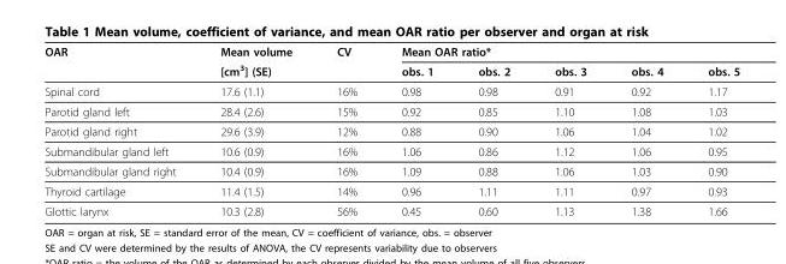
<table><thead><tr><td rowspan="2">OAR</td><td rowspan="2">Mean volume [cm<sup>3</sup>] (SE)</td><td rowspan="2">CV</td><td colspan="5">Mean OAR ratio*</td></tr><tr><td>obs. 1</td><td>obs. 2</td><td>obs. 3</td><td>obs. 4</td><td>obs. 5</td></tr></thead><tbody><tr><td>Spinal cord</td><td>17.6 (1.1)</td><td>16%</td><td>0.98</td><td>0.98</td><td>0.91</td><td>0.92</td><td>1.17</td></tr><tr><td>Parotid gland left</td><td>28.4 (2.6)</td><td>15%</td><td>0.92</td><td>0.85</td><td>1.10</td><td>1.08</td><td>1.03</td></tr><tr><td>Parotid gland right</td><td>29.6 (3.9)</td><td>12%</td><td>0.88</td><td>0.90</td><td>1.06</td><td>1.04</td><td>1.02</td></tr><tr><td>Submandibular gland left</td><td>10.6 (0.9)</td><td>16%</td><td>1.06</td><td>0.86</td><td>1.12</td><td>1.06</td><td>0.95</td></tr><tr><td>Submandibular gland right</td><td>10.4 (0.9)</td><td>16%</td><td>1.09</td><td>0.88</td><td>1.06</td><td>1.03</td><td>0.90</td></tr><tr><td>Thyroid cartilage</td><td>11.4 (1.5)</td><td>14%</td><td>0.96</td><td>1.11</td><td>1.11</td><td>0.97</td><td>0.93</td></tr><tr><td>Glottic larynx</td><td>10.3 (2.8)</td><td>56%</td><td>0.45</td><td>0.60</td><td>1.13</td><td>1.38</td><td>1.66</td></tr></tbody></table>